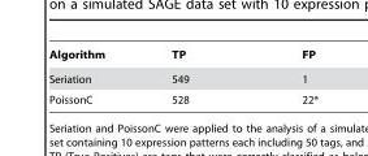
<table><thead><tr><td>Algorithm</td><td>TP</td><td>FP</td></tr></thead><tbody><tr><td>Seriation</td><td>549</td><td>1</td></tr><tr><td>PoissonC</td><td>528</td><td>22*</td></tr></tbody></table>